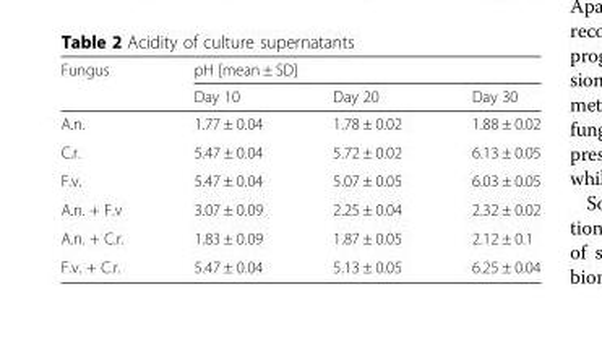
<table><thead><tr><td rowspan="2">Fungus</td><td colspan="3">pH [mean ± SD]</td></tr><tr><td>Day 10</td><td>Day 20</td><td>Day 30</td></tr></thead><tbody><tr><td>A.n.</td><td>1.77 ± 0.04</td><td>1.78 ± 0.02</td><td>1.88 ± 0.02</td></tr><tr><td>C.r.</td><td>5.47 ± 0.04</td><td>5.72 ± 0.02</td><td>6.13 ± 0.05</td></tr><tr><td>F.v.</td><td>5.47 ± 0.04</td><td>5.07 ± 0.05</td><td>6.03 ± 0.05</td></tr><tr><td>A.n. + F.v</td><td>3.07 ± 0.09</td><td>2.25 ± 0.04</td><td>2.32 ± 0.02</td></tr><tr><td>A.n. + C.r.</td><td>1.83 ± 0.09</td><td>1.87 ± 0.05</td><td>2.12 ± 0.1</td></tr><tr><td>F.v. + C.r.</td><td>5.47 ± 0.04</td><td>5.13 ± 0.05</td><td>6.25 ± 0.04</td></tr></tbody></table>